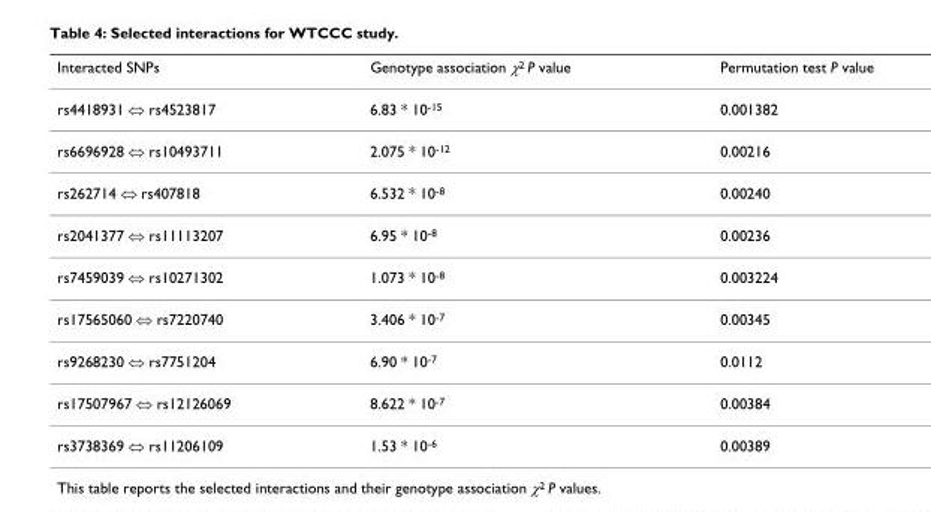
<table><thead><tr><td>Interacted SNPs</td><td>Genotype association χ<sup>2</sup> P value</td><td>Permutation test P value</td></tr></thead><tbody><tr><td>rs4418931 ⇔ rs4523817</td><td>6.83 * 10<sup>-15</sup></td><td>0.001382</td></tr><tr><td>rs6696928 ⇔ rs10493711</td><td>2.075 * 10<sup>-12</sup></td><td>0.00216</td></tr><tr><td>rs262714 ⇔ rs407818</td><td>6.532 * 10<sup>-8</sup></td><td>0.00240</td></tr><tr><td>rs2041377 ⇔ rs11113207</td><td>6.95 * 10<sup>-8</sup></td><td>0.00236</td></tr><tr><td>rs7459039 ⇔ rs10271302</td><td>1.073 * 10<sup>-8</sup></td><td>0.003224</td></tr><tr><td>rs17565060 ⇔ rs7220740</td><td>3.406 * 10<sup>-7</sup></td><td>0.00345</td></tr><tr><td>rs9268230 ⇔ rs7751204</td><td>6.90 * 10<sup>-7</sup></td><td>0.0112</td></tr><tr><td>rs17507967 ⇔ rs12126069</td><td>8.622 * 10<sup>-7</sup></td><td>0.00384</td></tr><tr><td>rs3738369 ⇔ rs11206109</td><td>1.53 * 10<sup>-6</sup></td><td>0.00389</td></tr></tbody></table>